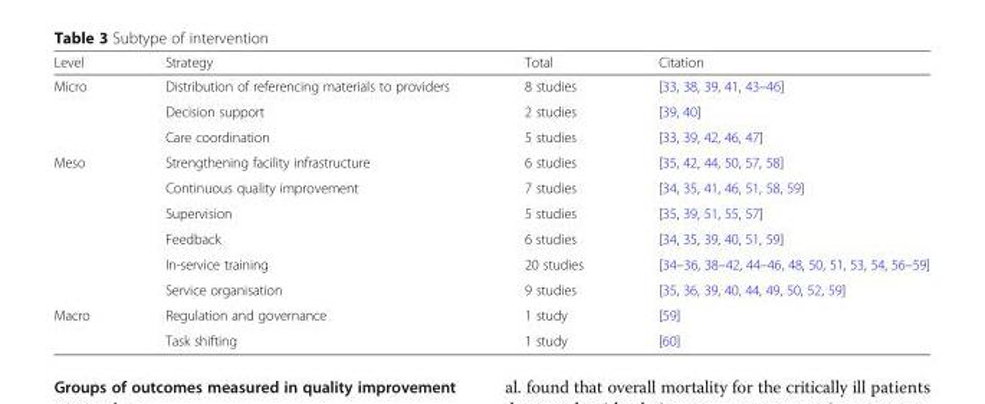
<table><thead><tr><td>Level</td><td>Strategy</td><td>Total</td><td>Citation</td></tr></thead><tbody><tr><td rowspan="3">Micro</td><td>Distribution of referencing materials to providers</td><td>8 studies</td><td>[33, 38, 39, 41, 43–46]</td></tr><tr><td>Decision support</td><td>2 studies</td><td>[39, 40]</td></tr><tr><td>Care coordination</td><td>5 studies</td><td>[33, 39, 42, 46, 47]</td></tr><tr><td rowspan="6">Meso</td><td>Strengthening facility infrastructure</td><td>6 studies</td><td>[35, 42, 44, 50, 57, 58]</td></tr><tr><td>Continuous quality improvement</td><td>7 studies</td><td>[34, 35, 41, 46, 51, 58, 59]</td></tr><tr><td>Supervision</td><td>5 studies</td><td>[35, 39, 51, 55, 57]</td></tr><tr><td>Feedback</td><td>6 studies</td><td>[34, 35, 39, 40, 51, 59]</td></tr><tr><td>In-service training</td><td>20 studies</td><td>[34–36, 38–42, 44–46, 48, 50, 51, 53, 54, 56–59]</td></tr><tr><td>Service organisation</td><td>9 studies</td><td>[35, 36, 39, 40, 44, 49, 50, 52, 59]</td></tr><tr><td rowspan="2">Macro</td><td>Regulation and governance</td><td>1 study</td><td>[59]</td></tr><tr><td>Task shifting</td><td>1 study</td><td>[60]</td></tr></tbody></table>